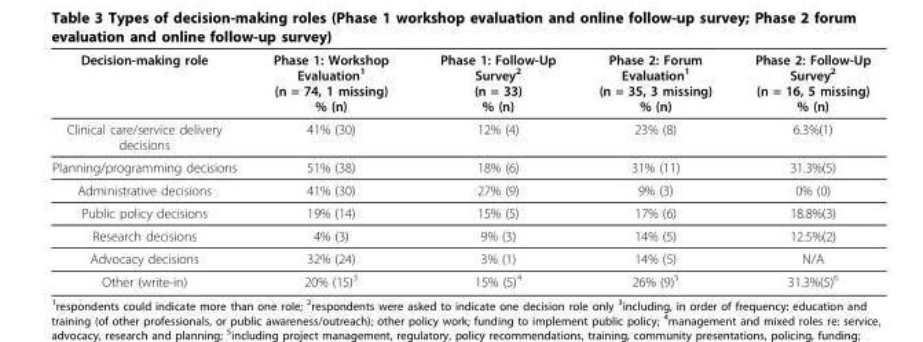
<table><thead><tr><td>Decision-making role</td><td>Phase 1: Workshop Evaluation<sup>1</sup> (n = 74, 1 missing) % (n)</td><td>Phase 1: Follow-Up Survey<sup>2</sup> (n = 33) % (n)</td><td>Phase 2: Forum Evaluation<sup>1</sup> (n = 35, 3 missing) % (n)</td><td>Phase 2: Follow-Up Survey<sup>2</sup> (n = 16, 5 missing) % (n)</td></tr></thead><tbody><tr><td>Clinical care/service delivery decisions</td><td>41% (30)</td><td>12% (4)</td><td>23% (8)</td><td>6.3%(1)</td></tr><tr><td>Planning/programming decisions</td><td>51% (38)</td><td>18% (6)</td><td>31% (11)</td><td>31.3%(5)</td></tr><tr><td>Administrative decisions</td><td>41% (30)</td><td>27% (9)</td><td>9% (3)</td><td>0% (0)</td></tr><tr><td>Public policy decisions</td><td>19% (14)</td><td>15% (5)</td><td>17% (6)</td><td>18.8%(3)</td></tr><tr><td>Research decisions</td><td>4% (3)</td><td>9% (3)</td><td>14% (5)</td><td>12.5%(2)</td></tr><tr><td>Advocacy decisions</td><td>32% (24)</td><td>3% (1)</td><td>14% (5)</td><td>N/A</td></tr><tr><td>Other (write-in)</td><td>20% (15)<sup>3</sup></td><td>15% (5)<sup>4</sup></td><td>26% (9)<sup>5</sup></td><td>31.3%(5)<sup>6</sup></td></tr></tbody></table>